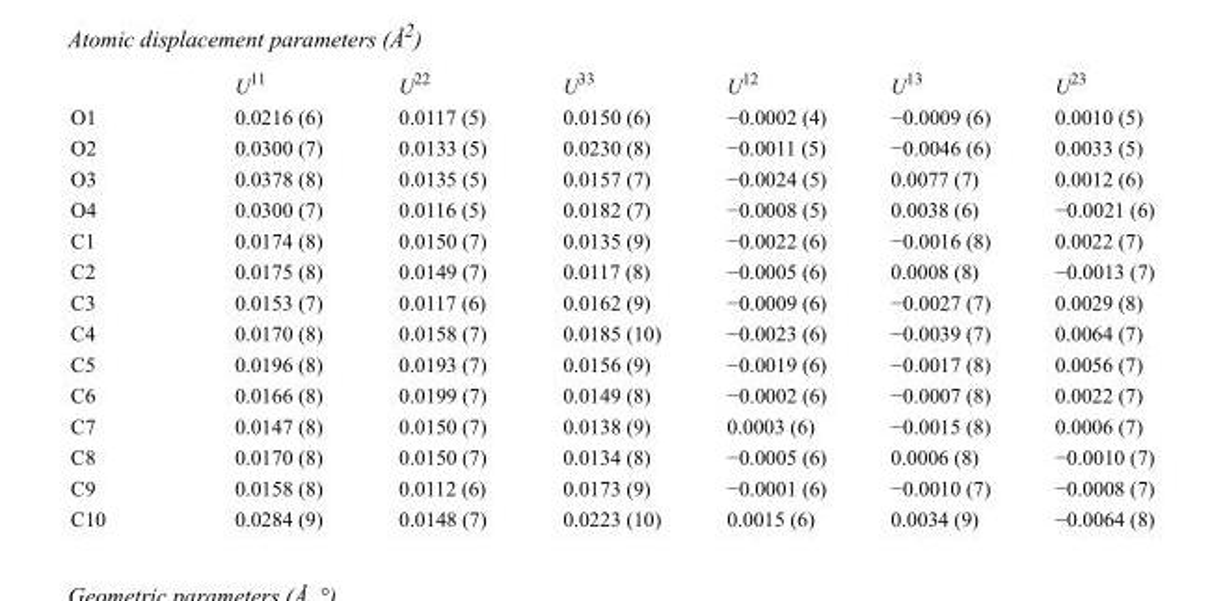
<table><thead><tr><td></td><td>U<sup>11</sup></td><td>U<sup>22</sup></td><td>U<sup>33</sup></td><td>U<sup>12</sup></td><td>U<sup>13</sup></td><td>U<sup>23</sup></td></tr></thead><tbody><tr><td>O1</td><td>0.0216 (6)</td><td>0.0117 (5)</td><td>0.0150 (6)</td><td>−0.0002 (4)</td><td>−0.0009 (6)</td><td>0.0010 (5)</td></tr><tr><td>O2</td><td>0.0300 (7)</td><td>0.0133 (5)</td><td>0.0230 (8)</td><td>−0.0011 (5)</td><td>−0.0046 (6)</td><td>0.0033 (5)</td></tr><tr><td>O3</td><td>0.0378 (8)</td><td>0.0135 (5)</td><td>0.0157 (7)</td><td>−0.0024 (5)</td><td>0.0077 (7)</td><td>0.0012 (6)</td></tr><tr><td>O4</td><td>0.0300 (7)</td><td>0.0116 (5)</td><td>0.0182 (7)</td><td>−0.0008 (5)</td><td>0.0038 (6)</td><td>−0.0021 (6)</td></tr><tr><td>C1</td><td>0.0174 (8)</td><td>0.0150 (7)</td><td>0.0135 (9)</td><td>−0.0022 (6)</td><td>−0.0016 (8)</td><td>0.0022 (7)</td></tr><tr><td>C2</td><td>0.0175 (8)</td><td>0.0149 (7)</td><td>0.0117 (8)</td><td>−0.0005 (6)</td><td>0.0008 (8)</td><td>−0.0013 (7)</td></tr><tr><td>C3</td><td>0.0153 (7)</td><td>0.0117 (6)</td><td>0.0162 (9)</td><td>−0.0009 (6)</td><td>−0.0027 (7)</td><td>0.0029 (8)</td></tr><tr><td>C4</td><td>0.0170 (8)</td><td>0.0158 (7)</td><td>0.0185 (10)</td><td>−0.0023 (6)</td><td>−0.0039 (7)</td><td>0.0064 (7)</td></tr><tr><td>C5</td><td>0.0196 (8)</td><td>0.0193 (7)</td><td>0.0156 (9)</td><td>−0.0019 (6)</td><td>−0.0017 (8)</td><td>0.0056 (7)</td></tr><tr><td>C6</td><td>0.0166 (8)</td><td>0.0199 (7)</td><td>0.0149 (8)</td><td>−0.0002 (6)</td><td>−0.0007 (8)</td><td>0.0022 (7)</td></tr><tr><td>C7</td><td>0.0147 (8)</td><td>0.0150 (7)</td><td>0.0138 (9)</td><td>0.0003 (6)</td><td>−0.0015 (8)</td><td>0.0006 (7)</td></tr><tr><td>C8</td><td>0.0170 (8)</td><td>0.0150 (7)</td><td>0.0134 (8)</td><td>−0.0005 (6)</td><td>0.0006 (8)</td><td>−0.0010 (7)</td></tr><tr><td>C9</td><td>0.0158 (8)</td><td>0.0112 (6)</td><td>0.0173 (9)</td><td>−0.0001 (6)</td><td>−0.0010 (7)</td><td>−0.0008 (7)</td></tr><tr><td>C10</td><td>0.0284 (9)</td><td>0.0148 (7)</td><td>0.0223 (10)</td><td>0.0015 (6)</td><td>0.0034 (9)</td><td>−0.0064 (8)</td></tr></tbody></table>